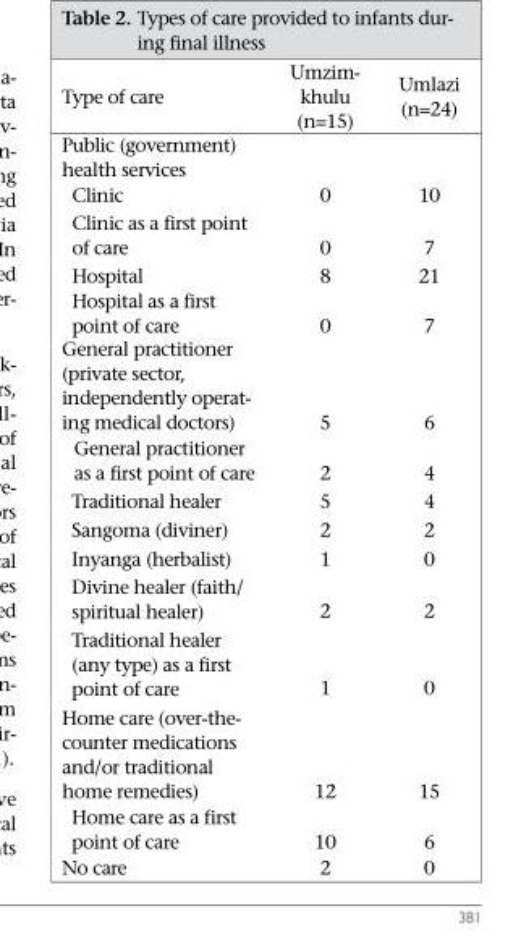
<table><thead><tr><td>Type of care</td><td>Umzim- khulu (n=15)</td><td>Umlazi (n=24)</td></tr></thead><tbody><tr><td colspan="3">Public (government) health services</td></tr><tr><td>Clinic</td><td>0</td><td>10</td></tr><tr><td>Clinic as a first point of care</td><td>0</td><td>7</td></tr><tr><td>Hospital</td><td>8</td><td>21</td></tr><tr><td>Hospital as a first point of care</td><td>0</td><td>7</td></tr><tr><td>General practitioner (private sector, independently operat- ing medical doctors)</td><td>5</td><td>6</td></tr><tr><td>General practitioner as a first point of care</td><td>2</td><td>4</td></tr><tr><td>Traditional healer</td><td>5</td><td>4</td></tr><tr><td>Sangoma (diviner)</td><td>2</td><td>2</td></tr><tr><td>Inyanga (herbalist)</td><td>1</td><td>0</td></tr><tr><td>Divine healer (faith/ spiritual healer)</td><td>2</td><td>2</td></tr><tr><td>Traditional healer (any type) as a first point of care</td><td>1</td><td>0</td></tr><tr><td>Home care (over-the- counter medications and/or traditional home remedies)</td><td>12</td><td>15</td></tr><tr><td>Home care as a first point of care</td><td>10</td><td>6</td></tr><tr><td>No care</td><td>2</td><td>0</td></tr></tbody></table>